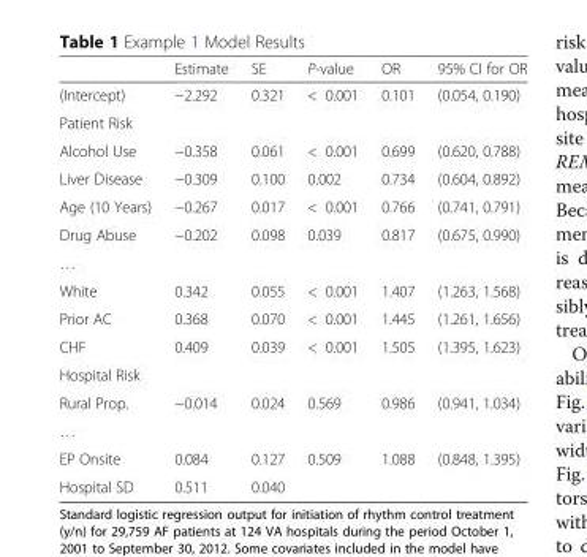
<table><thead><tr><td></td><td>Estimate</td><td>SE</td><td>P-value</td><td>OR</td><td>95% CI for OR</td></tr></thead><tbody><tr><td>(Intercept)</td><td>−2.292</td><td>0.321</td><td>&lt; 0.001</td><td>0.101</td><td>(0.054, 0.190)</td></tr><tr><td colspan="6">Patient Risk</td></tr><tr><td>Alcohol Use</td><td>−0.358</td><td>0.061</td><td>&lt; 0.001</td><td>0.699</td><td>(0.620, 0.788)</td></tr><tr><td>Liver Disease</td><td>−0.309</td><td>0.100</td><td>0.002</td><td>0.734</td><td>(0.604, 0.892)</td></tr><tr><td>Age (10 Years)</td><td>−0.267</td><td>0.017</td><td>&lt; 0.001</td><td>0.766</td><td>(0.741, 0.791)</td></tr><tr><td>Drug Abuse</td><td>−0.202</td><td>0.098</td><td>0.039</td><td>0.817</td><td>(0.675, 0.990)</td></tr><tr><td colspan="6">…</td></tr><tr><td>White</td><td>0.342</td><td>0.055</td><td>&lt; 0.001</td><td>1.407</td><td>(1.263, 1.568)</td></tr><tr><td>Prior AC</td><td>0.368</td><td>0.070</td><td>&lt; 0.001</td><td>1.445</td><td>(1.261, 1.656)</td></tr><tr><td>CHF</td><td>0.409</td><td>0.039</td><td>&lt; 0.001</td><td>1.505</td><td>(1.395, 1.623)</td></tr><tr><td colspan="6">Hospital Risk</td></tr><tr><td>Rural Prop.</td><td>−0.014</td><td>0.024</td><td>0.569</td><td>0.986</td><td>(0.941, 1.034)</td></tr><tr><td colspan="6">…</td></tr><tr><td>EP Onsite</td><td>0.084</td><td>0.127</td><td>0.509</td><td>1.088</td><td>(0.848, 1.395)</td></tr><tr><td>Hospital SD</td><td>0.511</td><td>0.040</td><td></td><td></td><td></td></tr></tbody></table>